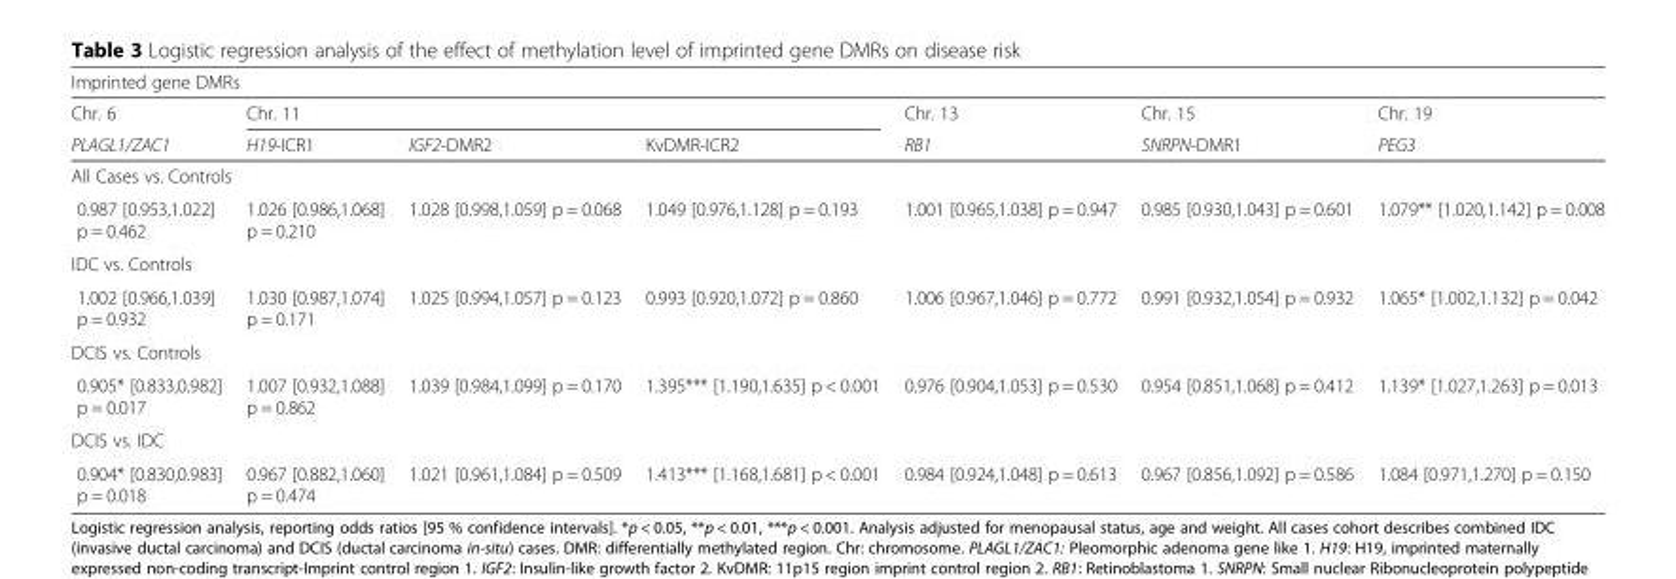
<table><thead><tr><td colspan="7">Imprinted gene DMRs</td></tr><tr><td rowspan="2">Chr. 6 PLAGL1/ZAC1</td><td colspan="3">Chr. 11</td><td rowspan="2">Chr. 13 RB1</td><td rowspan="2">Chr. 15 SNRPN-DMR1</td><td rowspan="2">Chr. 19 PEG3</td></tr><tr><td>H19-ICR1</td><td>IGF2-DMR2</td><td>KvDMR-ICR2</td></tr></thead><tbody><tr><td colspan="7">All Cases vs. Controls</td></tr><tr><td>0.987 [0.953,1.022] p = 0.462</td><td>1.026 [0.986,1.068] p = 0.210</td><td>1.028 [0.998,1.059] p = 0.068</td><td>1.049 [0.976,1.128] p = 0.193</td><td>1.001 [0.965,1.038] p = 0.947</td><td>0.985 [0.930,1.043] p = 0.601</td><td>1.079** [1.020,1.142] p = 0.008</td></tr><tr><td colspan="7">IDC vs. Controls</td></tr><tr><td>1.002 [0.966,1.039] p = 0.932</td><td>1.030 [0.987,1.074] p = 0.171</td><td>1.025 [0.994,1.057] p = 0.123</td><td>0.993 [0.920,1.072] p = 0.860</td><td>1.006 [0.967,1.046] p = 0.772</td><td>0.991 [0.932,1.054] p = 0.932</td><td>1.065* [1.002,1.132] p = 0.042</td></tr><tr><td colspan="7">DCIS vs. Controls</td></tr><tr><td>0.905* [0.833,0.982] p = 0.017</td><td>1.007 [0.932,1.088] p = 0.862</td><td>1.039 [0.984,1.099] p = 0.170</td><td>1.395*** [1.190,1.635] p &lt; 0.001</td><td>0.976 [0.904,1.053] p = 0.530</td><td>0.954 [0.851,1.068] p = 0.412</td><td>1.139* [1.027,1.263] p = 0.013</td></tr><tr><td colspan="7">DCIS vs. IDC</td></tr><tr><td>0.904* [0.830,0.983] p = 0.018</td><td>0.967 [0.882,1.060] p = 0.474</td><td>1.021 [0.961,1.084] p = 0.509</td><td>1.413*** [1.168,1.681] p &lt; 0.001</td><td>0.984 [0.924,1.048] p = 0.613</td><td>0.967 [0.856,1.092] p = 0.586</td><td>1.084 [0.971,1.270] p = 0.150</td></tr></tbody></table>